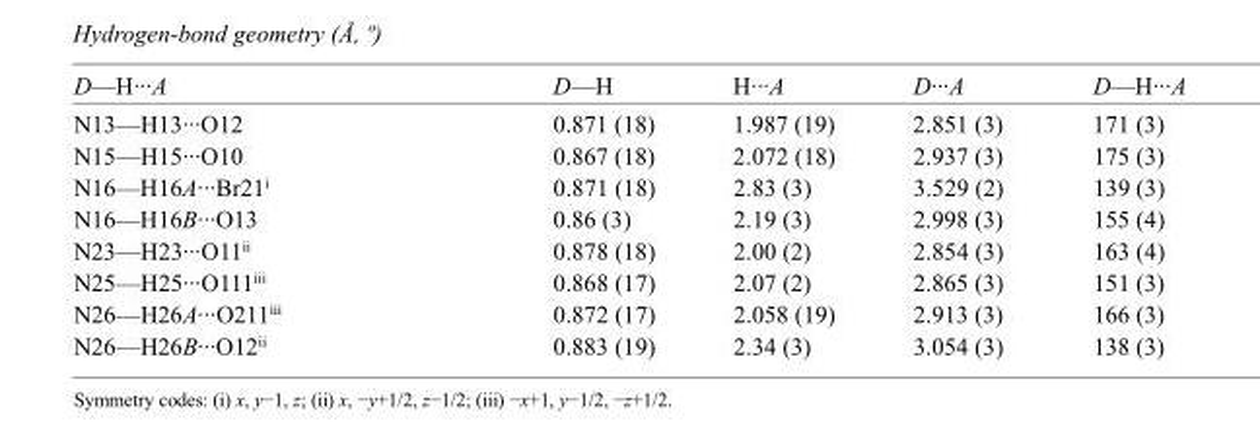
<table><tbody><tr><td>D—H···A</td><td>D—H</td><td>H···A</td><td>D···A</td><td>D—H···A</td></tr><tr><td>N13—H13···O12</td><td>0.871 (18)</td><td>1.987 (19)</td><td>2.851 (3)</td><td>171 (3)</td></tr><tr><td>N15—H15···O10</td><td>0.867 (18)</td><td>2.072 (18)</td><td>2.937 (3)</td><td>175 (3)</td></tr><tr><td>N16—H16A···Br21<sup>i</sup></td><td>0.871 (18)</td><td>2.83 (3)</td><td>3.529 (2)</td><td>139 (3)</td></tr><tr><td>N16—H16B···O13</td><td>0.86 (3)</td><td>2.19 (3)</td><td>2.998 (3)</td><td>155 (4)</td></tr><tr><td>N23—H23···O11<sup>ii</sup></td><td>0.878 (18)</td><td>2.00 (2)</td><td>2.854 (3)</td><td>163 (4)</td></tr><tr><td>N25—H25···O111<sup>iii</sup></td><td>0.868 (17)</td><td>2.07 (2)</td><td>2.865 (3)</td><td>151 (3)</td></tr><tr><td>N26—H26A···O211<sup>iii</sup></td><td>0.872 (17)</td><td>2.058 (19)</td><td>2.913 (3)</td><td>166 (3)</td></tr><tr><td>N26—H26B···O12<sup>ii</sup></td><td>0.883 (19)</td><td>2.34 (3)</td><td>3.054 (3)</td><td>138 (3)</td></tr></tbody></table>